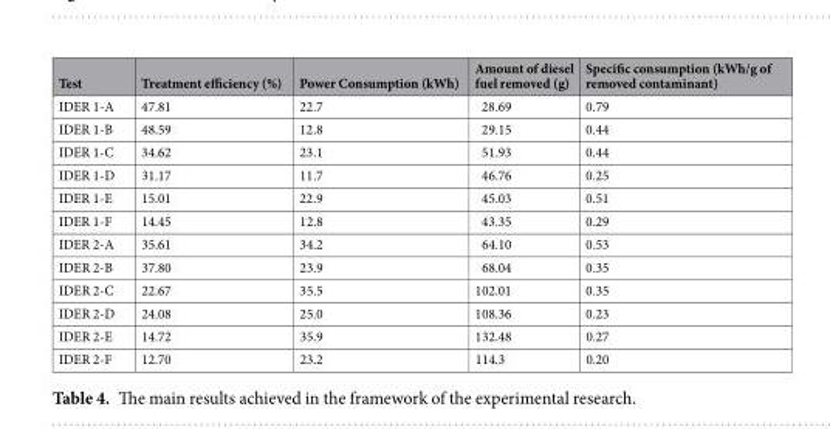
<table><thead><tr><td>Test</td><td>Treatment efficiency (%)</td><td>Power Consumption (kWh)</td><td>Amount of diesel fuel removed (g)</td><td>Specific consumption (kWh/g of removed contaminant)</td></tr></thead><tbody><tr><td>IDER 1-A</td><td>47.81</td><td>22.7</td><td>28.69</td><td>0.79</td></tr><tr><td>IDER 1-B</td><td>48.59</td><td>12.8</td><td>29.15</td><td>0.44</td></tr><tr><td>IDER 1-C</td><td>34.62</td><td>23.1</td><td>51.93</td><td>0.44</td></tr><tr><td>IDER 1-D</td><td>31.17</td><td>11.7</td><td>46.76</td><td>0.25</td></tr><tr><td>IDER 1-E</td><td>15.01</td><td>22.9</td><td>45.03</td><td>0.51</td></tr><tr><td>IDER 1-F</td><td>14.45</td><td>12.8</td><td>43.35</td><td>0.29</td></tr><tr><td>IDER 2-A</td><td>35.61</td><td>34.2</td><td>64.10</td><td>0.53</td></tr><tr><td>IDER 2-B</td><td>37.80</td><td>23.9</td><td>68.04</td><td>0.35</td></tr><tr><td>IDER 2-C</td><td>22.67</td><td>35.5</td><td>102.01</td><td>0.35</td></tr><tr><td>IDER 2-D</td><td>24.08</td><td>25.0</td><td>108.36</td><td>0.23</td></tr><tr><td>IDER 2-E</td><td>14.72</td><td>35.9</td><td>132.48</td><td>0.27</td></tr><tr><td>IDER 2-F</td><td>12.70</td><td>23.2</td><td>114.3</td><td>0.20</td></tr></tbody></table>